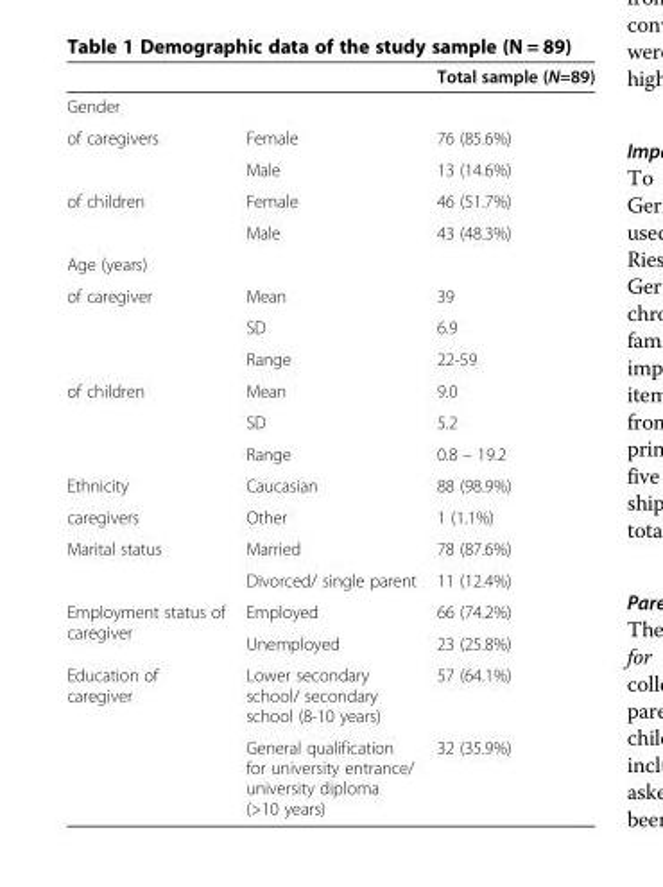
<table><thead><tr><td></td><td></td><td>Total sample (N=89)</td></tr></thead><tbody><tr><td colspan="3">Gender</td></tr><tr><td rowspan="2">of caregivers</td><td>Female</td><td>76 (85.6%)</td></tr><tr><td>Male</td><td>13 (14.6%)</td></tr><tr><td rowspan="2">of children</td><td>Female</td><td>46 (51.7%)</td></tr><tr><td>Male</td><td>43 (48.3%)</td></tr><tr><td colspan="3">Age (years)</td></tr><tr><td rowspan="3">of caregiver</td><td>Mean</td><td>39</td></tr><tr><td>SD</td><td>6.9</td></tr><tr><td>Range</td><td>22-59</td></tr><tr><td rowspan="3">of children</td><td>Mean</td><td>9.0</td></tr><tr><td>SD</td><td>5.2</td></tr><tr><td>Range</td><td>0.8 – 19.2</td></tr><tr><td>Ethnicity</td><td>Caucasian</td><td>88 (98.9%)</td></tr><tr><td>caregivers</td><td>Other</td><td>1 (1.1%)</td></tr><tr><td rowspan="2">Marital status</td><td>Married</td><td>78 (87.6%)</td></tr><tr><td>Divorced/ single parent</td><td>11 (12.4%)</td></tr><tr><td rowspan="2">Employment status of caregiver</td><td>Employed</td><td>66 (74.2%)</td></tr><tr><td>Unemployed</td><td>23 (25.8%)</td></tr><tr><td rowspan="2">Education of caregiver</td><td>Lower secondary school/ secondary school (8-10 years)</td><td>57 (64.1%)</td></tr><tr><td>General qualification for university entrance/ university diploma (&gt;10 years)</td><td>32 (35.9%)</td></tr></tbody></table>